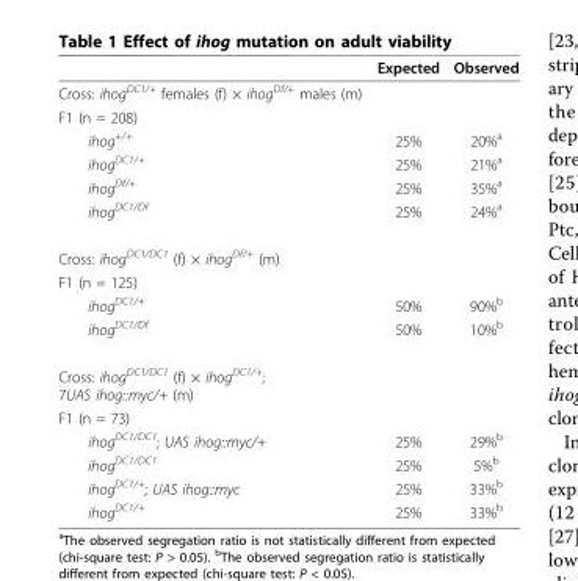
<table><thead><tr><td></td><td>Expected</td><td>Observed</td></tr></thead><tbody><tr><td colspan="3">Cross: ihog<sup>DC1/+</sup> females (f) × ihog<sup>Df/+</sup> males (m)</td></tr><tr><td colspan="3">F1 (n = 208)</td></tr><tr><td>ihog<sup>+/+</sup></td><td>25%</td><td>20%<sup>a</sup></td></tr><tr><td>ihog<sup>DC1/+</sup></td><td>25%</td><td>21%<sup>a</sup></td></tr><tr><td>ihog<sup>Df/+</sup></td><td>25%</td><td>35%<sup>a</sup></td></tr><tr><td>ihog<sup>DC1/Df</sup></td><td>25%</td><td>24%<sup>a</sup></td></tr><tr><td colspan="3">Cross: ihog<sup>DC1/DC1</sup> (f) × ihog<sup>Df/+</sup> (m)</td></tr><tr><td colspan="3">F1 (n = 125)</td></tr><tr><td>ihog<sup>DC1/+</sup></td><td>50%</td><td>90%<sup>b</sup></td></tr><tr><td>ihog<sup>DC1/Df</sup></td><td>50%</td><td>10%<sup>b</sup></td></tr><tr><td colspan="3">Cross: ihogDC1/DC1 (f) × ihogDC1/+; 7UAS ihog::myc/+ (m)</td></tr><tr><td colspan="3">F1 (n = 73)</td></tr><tr><td>ihog<sup>DC1/DC1</sup>; UAS ihog::myc/+</td><td>25%</td><td>29%<sup>b</sup></td></tr><tr><td>ihog<sup>DC1/DC1</sup></td><td>25%</td><td>5%<sup>b</sup></td></tr><tr><td>ihog<sup>DC1/+</sup>; UAS ihog::myc</td><td>25%</td><td>33%<sup>b</sup></td></tr><tr><td>ihog<sup>DC1/+</sup></td><td>25%</td><td>33%<sup>b</sup></td></tr></tbody></table>